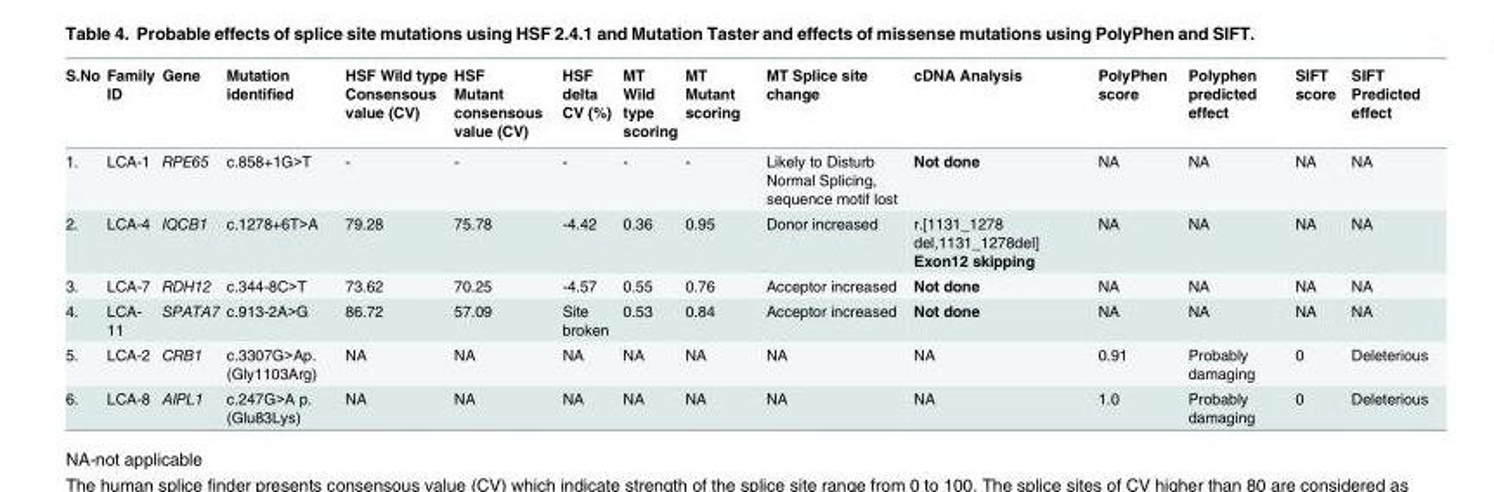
<table><thead><tr><td>S.No</td><td>Family ID</td><td>Gene</td><td>Mutation identified</td><td>HSF Wild type Consensous value (CV)</td><td>HSF Mutant consensous value (CV)</td><td>HSF delta CV (%)</td><td>MT Wild type scoring</td><td>MT Mutant scoring</td><td>MT Splice site change</td><td>cDNA Analysis</td><td>PolyPhen score</td><td>Polyphen predicted effect</td><td>SIFT score</td><td>SIFT Predicted effect</td></tr></thead><tbody><tr><td>1.</td><td>LCA-1</td><td>RPE65</td><td>c.858+1G&gt;T</td><td>-</td><td>-</td><td>-</td><td>-</td><td>-</td><td>Likely to Disturb Normal Splicing, sequence motif lost</td><td>Not done</td><td>NA</td><td>NA</td><td>NA</td><td>NA</td></tr><tr><td>2.</td><td>LCA-4</td><td>IQCB1</td><td>c.1278+6T&gt;A</td><td>79.28</td><td>75.78</td><td>-4.42</td><td>0.36</td><td>0.95</td><td>Donor increased</td><td>r.[1131_1278 del,1131_1278del] Exon12 skipping</td><td>NA</td><td>NA</td><td>NA</td><td>NA</td></tr><tr><td>3.</td><td>LCA-7</td><td>RDH12</td><td>c.344-8C&gt;T</td><td>73.62</td><td>70.25</td><td>-4.57</td><td>0.55</td><td>0.76</td><td>Acceptor increased</td><td>Not done</td><td>NA</td><td>NA</td><td>NA</td><td>NA</td></tr><tr><td>4.</td><td>LCA- 11</td><td>SPATA7</td><td>c.913-2A&gt;G</td><td>86.72</td><td>57.09</td><td>Site broken</td><td>0.53</td><td>0.84</td><td>Acceptor increased</td><td>Not done</td><td>NA</td><td>NA</td><td>NA</td><td>NA</td></tr><tr><td>5.</td><td>LCA-2</td><td>CRB1</td><td>c.3307G&gt;Ap. (Gly1103Arg)</td><td>NA</td><td>NA</td><td>NA</td><td>NA</td><td>NA</td><td>NA</td><td>NA</td><td>0.91</td><td>Probably damaging</td><td>0</td><td>Deleterious</td></tr><tr><td>6.</td><td>LCA-8</td><td>AIPL1</td><td>c.247G&gt;A p. (Glu83Lys)</td><td>NA</td><td>NA</td><td>NA</td><td>NA</td><td>NA</td><td>NA</td><td>NA</td><td>1.0</td><td>Probably damaging</td><td>0</td><td>Deleterious</td></tr></tbody></table>